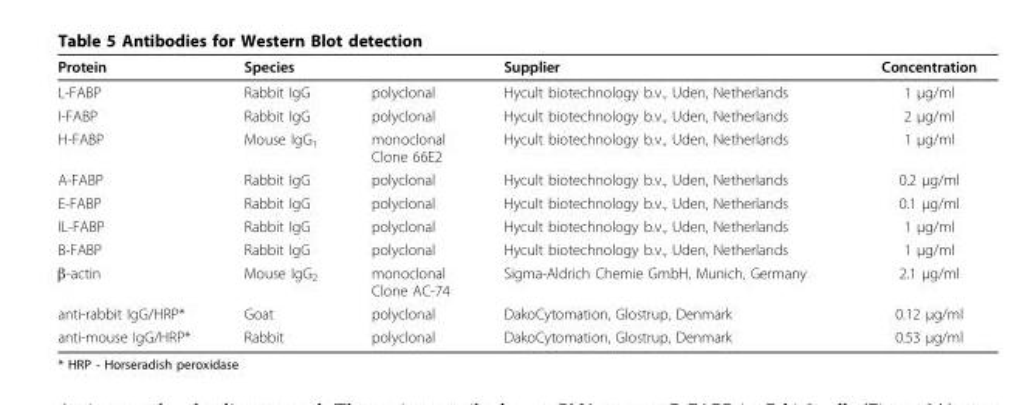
<table><thead><tr><td>Protein</td><td>Species</td><td></td><td>Supplier</td><td>Concentration</td></tr></thead><tbody><tr><td>L-FABP</td><td>Rabbit IgG</td><td>polyclonal</td><td>Hycult biotechnology b.v., Uden, Netherlands</td><td>1 μg/ml</td></tr><tr><td>I-FABP</td><td>Rabbit IgG</td><td>polyclonal</td><td>Hycult biotechnology b.v., Uden, Netherlands</td><td>2 μg/ml</td></tr><tr><td>H-FABP</td><td>Mouse IgG<sub>1</sub></td><td>monoclonal Clone 66E2</td><td>Hycult biotechnology b.v., Uden, Netherlands</td><td>1 μg/ml</td></tr><tr><td>A-FABP</td><td>Rabbit IgG</td><td>polyclonal</td><td>Hycult biotechnology b.v., Uden, Netherlands</td><td>0.2 μg/ml</td></tr><tr><td>E-FABP</td><td>Rabbit IgG</td><td>polyclonal</td><td>Hycult biotechnology b.v., Uden, Netherlands</td><td>0.1 μg/ml</td></tr><tr><td>IL-FABP</td><td>Rabbit IgG</td><td>polyclonal</td><td>Hycult biotechnology b.v., Uden, Netherlands</td><td>1 μg/ml</td></tr><tr><td>B-FABP</td><td>Rabbit IgG</td><td>polyclonal</td><td>Hycult biotechnology b.v., Uden, Netherlands</td><td>1 μg/ml</td></tr><tr><td>β-actin</td><td>Mouse IgG<sub>2</sub></td><td>monoclonal Clone AC-74</td><td>Sigma-Aldrich Chemie GmbH, Munich, Germany</td><td>2.1 μg/ml</td></tr><tr><td>anti-rabbit IgG/HRP*</td><td>Goat</td><td>polyclonal</td><td>DakoCytomation, Glostrup, Denmark</td><td>0.12 μg/ml</td></tr><tr><td>anti-mouse IgG/HRP*</td><td>Rabbit</td><td>polyclonal</td><td>DakoCytomation, Glostrup, Denmark</td><td>0.53 μg/ml</td></tr></tbody></table>